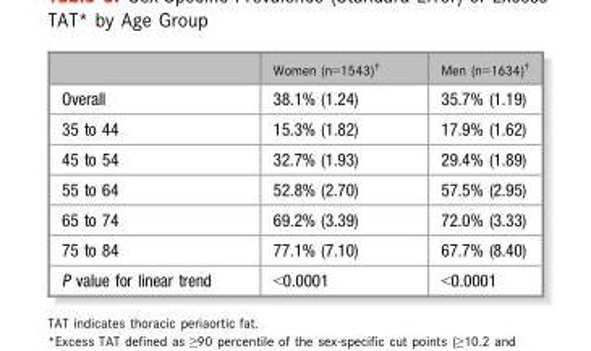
<table><thead><tr><td></td><td>Women (n=1543)†</td><td>Men (n=1634)†</td></tr></thead><tbody><tr><td>Overall</td><td>38.1% (1.24)</td><td>35.7% (1.19)</td></tr><tr><td>35 to 44</td><td>15.3% (1.82)</td><td>17.9% (1.62)</td></tr><tr><td>45 to 54</td><td>32.7% (1.93)</td><td>29.4% (1.89)</td></tr><tr><td>55 to 64</td><td>52.8% (2.70)</td><td>57.5% (2.95)</td></tr><tr><td>65 to 74</td><td>69.2% (3.39)</td><td>72.0% (3.33)</td></tr><tr><td>75 to 84</td><td>77.1% (7.10)</td><td>67.7% (8.40)</td></tr><tr><td>P value for linear trend</td><td>&lt;0.0001</td><td>&lt;0.0001</td></tr></tbody></table>